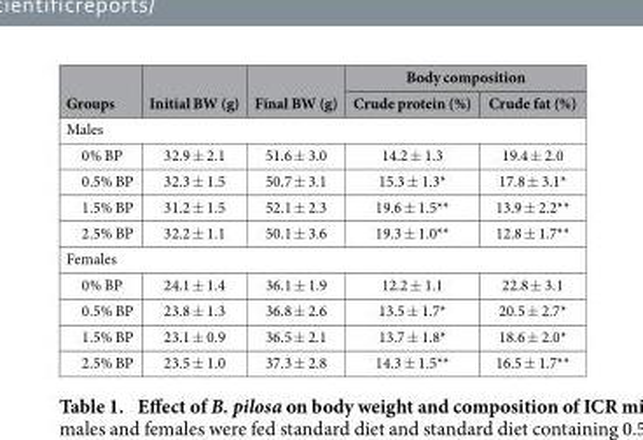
<table><thead><tr><td rowspan="2">Groups</td><td rowspan="2">Initial BW (g)</td><td rowspan="2">Final BW (g)</td><td colspan="2">Body composition</td></tr><tr><td>Crude protein (%)</td><td>Crude fat (%)</td></tr></thead><tbody><tr><td colspan="5">Males</td></tr><tr><td>0% BP</td><td>32.9 ± 2.1</td><td>51.6 ± 3.0</td><td>14.2 ± 1.3</td><td>19.4 ± 2.0</td></tr><tr><td>0.5% BP</td><td>32.3 ± 1.5</td><td>50.7 ± 3.1</td><td>15.3 ± 1.3*</td><td>17.8 ± 3.1*</td></tr><tr><td>1.5% BP</td><td>31.2 ± 1.5</td><td>52.1 ± 2.3</td><td>19.6 ± 1.5**</td><td>13.9 ± 2.2**</td></tr><tr><td>2.5% BP</td><td>32.2 ± 1.1</td><td>50.1 ± 3.6</td><td>19.3 ± 1.0**</td><td>12.8 ± 1.7**</td></tr><tr><td colspan="5">Females</td></tr><tr><td>0% BP</td><td>24.1 ± 1.4</td><td>36.1 ± 1.9</td><td>12.2 ± 1.1</td><td>22.8 ± 3.1</td></tr><tr><td>0.5% BP</td><td>23.8 ± 1.3</td><td>36.8 ± 2.6</td><td>13.5 ± 1.7*</td><td>20.5 ± 2.7*</td></tr><tr><td>1.5% BP</td><td>23.1 ± 0.9</td><td>36.5 ± 2.1</td><td>13.7 ± 1.8*</td><td>18.6 ± 2.0*</td></tr><tr><td>2.5% BP</td><td>23.5 ± 1.0</td><td>37.3 ± 2.8</td><td>14.3 ± 1.5**</td><td>16.5 ± 1.7**</td></tr></tbody></table>